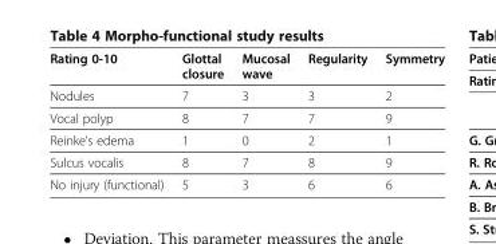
<table><thead><tr><td>Rating 0-10</td><td>Glottal closure</td><td>Mucosal wave</td><td>Regularity</td><td>Symmetry</td></tr></thead><tbody><tr><td>Nodules</td><td>7</td><td>3</td><td>3</td><td>2</td></tr><tr><td>Vocal polyp</td><td>8</td><td>7</td><td>7</td><td>9</td></tr><tr><td>Reinke&#x27;s edema</td><td>1</td><td>0</td><td>2</td><td>1</td></tr><tr><td>Sulcus vocalis</td><td>8</td><td>7</td><td>8</td><td>9</td></tr><tr><td>No injury (functional)</td><td>5</td><td>3</td><td>6</td><td>6</td></tr></tbody></table>